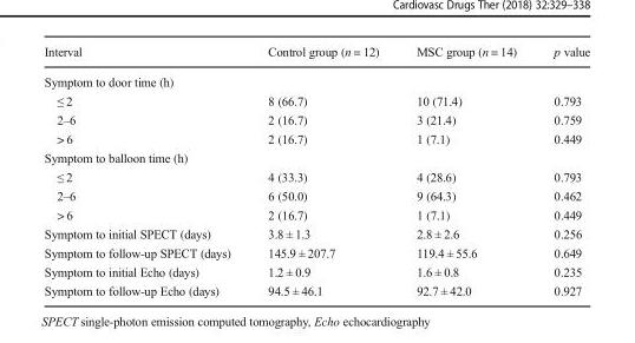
<table><thead><tr><td>Interval</td><td>Control group (n = 12)</td><td>MSC group (n = 14)</td><td>p value</td></tr></thead><tbody><tr><td colspan="4">Symptom to door time (h)</td></tr><tr><td>≤ 2 2–6 &gt; 6</td><td>8 (66.7) 2 (16.7) 2 (16.7)</td><td>10 (71.4) 3 (21.4) 1 (7.1)</td><td>0.793 0.759 0.449</td></tr><tr><td colspan="4">Symptom to balloon time (h)</td></tr><tr><td>≤ 2 2–6 &gt; 6</td><td>4 (33.3) 6 (50.0) 2 (16.7)</td><td>4 (28.6) 9 (64.3) 1 (7.1)</td><td>0.793 0.462 0.449</td></tr><tr><td>Symptom to initial SPECT (days)</td><td>3.8 ± 1.3</td><td>2.8 ± 2.6</td><td>0.256</td></tr><tr><td>Symptom to follow-up SPECT (days)</td><td>145.9 ± 207.7</td><td>119.4 ± 55.6</td><td>0.649</td></tr><tr><td>Symptom to initial Echo (days)</td><td>1.2 ± 0.9</td><td>1.6 ± 0.8</td><td>0.235</td></tr><tr><td>Symptom to follow-up Echo (days)</td><td>94.5 ± 46.1</td><td>92.7 ± 42.0</td><td>0.927</td></tr></tbody></table>